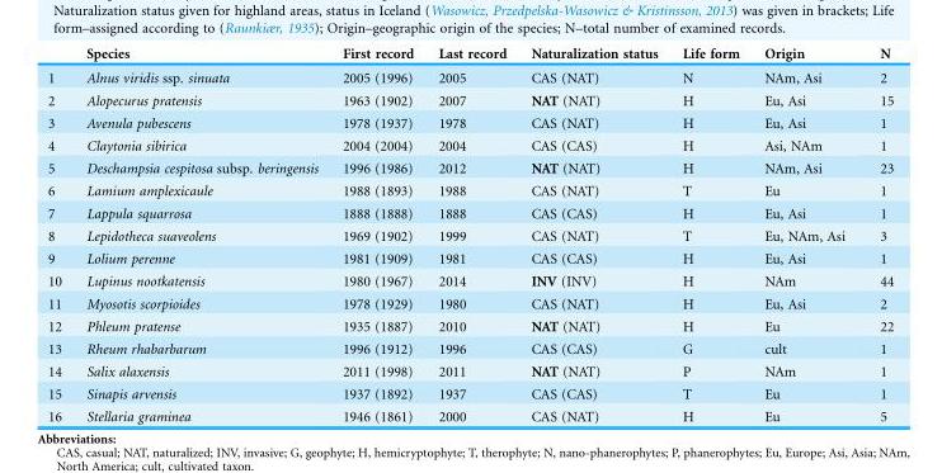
<table><thead><tr><td></td><td>Species</td><td>First record</td><td>Last record</td><td>Naturalization status</td><td>Life form</td><td>Origin</td><td>N</td></tr></thead><tbody><tr><td>1</td><td>Alnus viridis ssp. sinuata</td><td>2005 (1996)</td><td>2005</td><td>CAS (NAT)</td><td>N</td><td>NAm, Asi</td><td>2</td></tr><tr><td>2</td><td>Alopecurus pratensis</td><td>1963 (1902)</td><td>2007</td><td>NAT (NAT)</td><td>H</td><td>Eu, Asi</td><td>15</td></tr><tr><td>3</td><td>Avenula pubescens</td><td>1978 (1937)</td><td>1978</td><td>CAS (NAT)</td><td>H</td><td>Eu, Asi</td><td>1</td></tr><tr><td>4</td><td>Claytonia sibirica</td><td>2004 (2004)</td><td>2004</td><td>CAS (CAS)</td><td>H</td><td>Asi, NAm</td><td>1</td></tr><tr><td>5</td><td>Deschampsia cespitosa subsp. beringensis</td><td>1996 (1986)</td><td>2012</td><td>NAT (NAT)</td><td>H</td><td>NAm, Asi</td><td>23</td></tr><tr><td>6</td><td>Lamium amplexicaule</td><td>1988 (1893)</td><td>1988</td><td>CAS (NAT)</td><td>T</td><td>Eu</td><td>1</td></tr><tr><td>7</td><td>Lappula squarrosa</td><td>1888 (1888)</td><td>1888</td><td>CAS (CAS)</td><td>H</td><td>Eu, Asi</td><td>1</td></tr><tr><td>8</td><td>Lepidotheca suaveolens</td><td>1969 (1902)</td><td>1999</td><td>CAS (NAT)</td><td>T</td><td>Eu, NAm, Asi</td><td>3</td></tr><tr><td>9</td><td>Lolium perenne</td><td>1981 (1909)</td><td>1981</td><td>CAS (CAS)</td><td>H</td><td>Eu, Asi</td><td>1</td></tr><tr><td>10</td><td>Lupinus nootkatensis</td><td>1980 (1967)</td><td>2014</td><td>INV (INV)</td><td>H</td><td>NAm</td><td>44</td></tr><tr><td>11</td><td>Myosotis scorpioides</td><td>1978 (1929)</td><td>1980</td><td>CAS (NAT)</td><td>H</td><td>Eu, Asi</td><td>2</td></tr><tr><td>12</td><td>Phleum pratense</td><td>1935 (1887)</td><td>2010</td><td>NAT (NAT)</td><td>H</td><td>Eu</td><td>22</td></tr><tr><td>13</td><td>Rheum rhabarbarum</td><td>1996 (1912)</td><td>1996</td><td>CAS (CAS)</td><td>G</td><td>cult</td><td>1</td></tr><tr><td>14</td><td>Salix alaxensis</td><td>2011 (1998)</td><td>2011</td><td>NAT (NAT)</td><td>P</td><td>NAm</td><td>1</td></tr><tr><td>15</td><td>Sinapis arvensis</td><td>1937 (1892)</td><td>1937</td><td>CAS (CAS)</td><td>T</td><td>Eu</td><td>1</td></tr><tr><td>16</td><td>Stellaria graminea</td><td>1946 (1861)</td><td>2000</td><td>CAS (NAT)</td><td>H</td><td>Eu</td><td>5</td></tr></tbody></table>